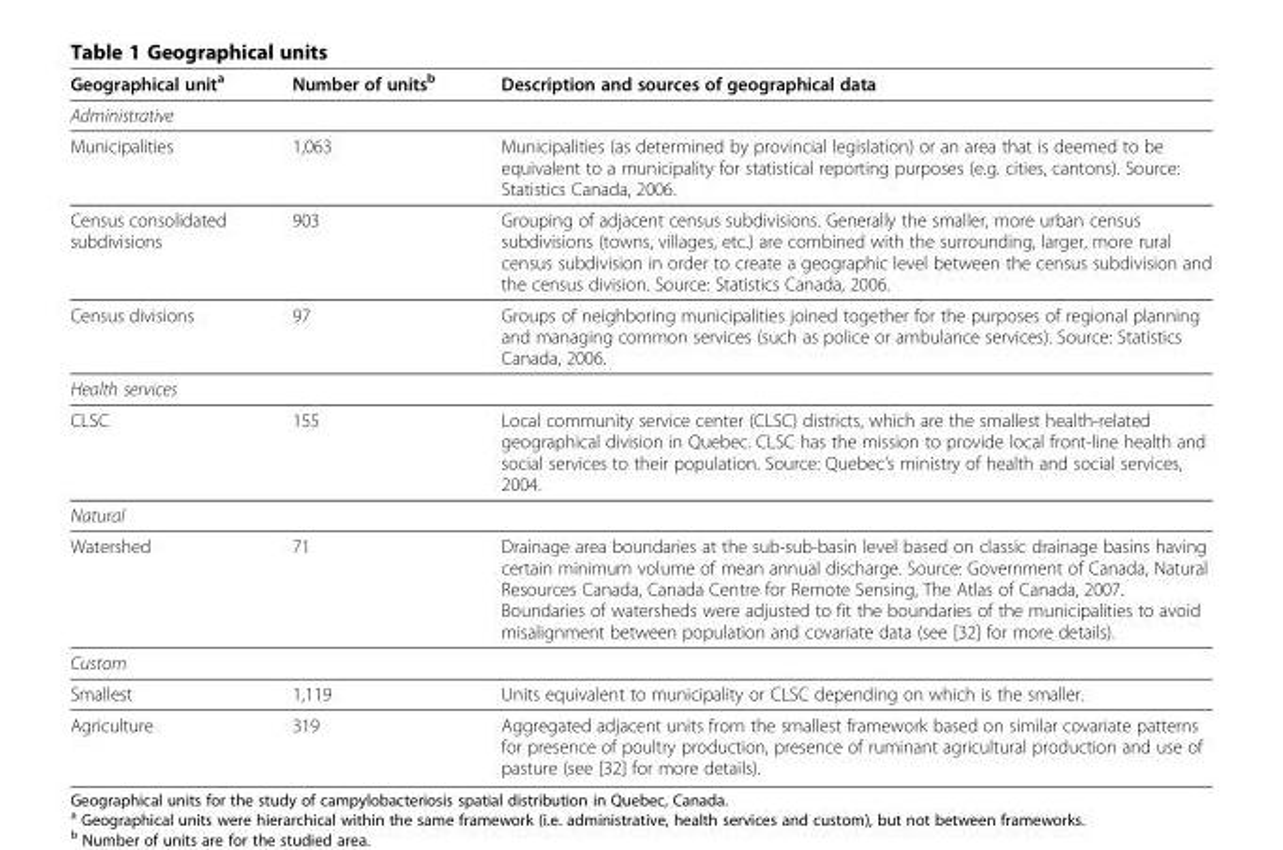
<table><thead><tr><td>Geographical unit<sup>a</sup></td><td>Number of units<sup>b</sup></td><td>Description and sources of geographical data</td></tr></thead><tbody><tr><td colspan="3">Administrative</td></tr><tr><td>Municipalities</td><td>1,063</td><td>Municipalities (as determined by provincial legislation) or an area that is deemed to be equivalent to a municipality for statistical reporting purposes (e.g. cities, cantons). Source: Statistics Canada, 2006.</td></tr><tr><td>Census consolidated subdivisions</td><td>903</td><td>Grouping of adjacent census subdivisions. Generally the smaller, more urban census subdivisions (towns, villages, etc.) are combined with the surrounding, larger, more rural census subdivision in order to create a geographic level between the census subdivision and the census division. Source: Statistics Canada, 2006.</td></tr><tr><td>Census divisions</td><td>97</td><td>Groups of neighboring municipalities joined together for the purposes of regional planning and managing common services (such as police or ambulance services). Source: Statistics Canada, 2006.</td></tr><tr><td colspan="3">Health services</td></tr><tr><td>CLSC</td><td>155</td><td>Local community service center (CLSC) districts, which are the smallest health-related geographical division in Quebec. CLSC has the mission to provide local front-line health and social services to their population. Source: Quebec’s ministry of health and social services, 2004.</td></tr><tr><td colspan="3">Natural</td></tr><tr><td>Watershed</td><td>71</td><td>Drainage area boundaries at the sub-sub-basin level based on classic drainage basins having certain minimum volume of mean annual discharge. Source: Government of Canada, Natural Resources Canada, Canada Centre for Remote Sensing, The Atlas of Canada, 2007. Boundaries of watersheds were adjusted to fit the boundaries of the municipalities to avoid misalignment between population and covariate data (see [32] for more details).</td></tr><tr><td colspan="3">Custom</td></tr><tr><td>Smallest</td><td>1,119</td><td>Units equivalent to municipality or CLSC depending on which is the smaller.</td></tr><tr><td>Agriculture</td><td>319</td><td>Aggregated adjacent units from the smallest framework based on similar covariate patterns for presence of poultry production, presence of ruminant agricultural production and use of pasture (see [32] for more details).</td></tr></tbody></table>